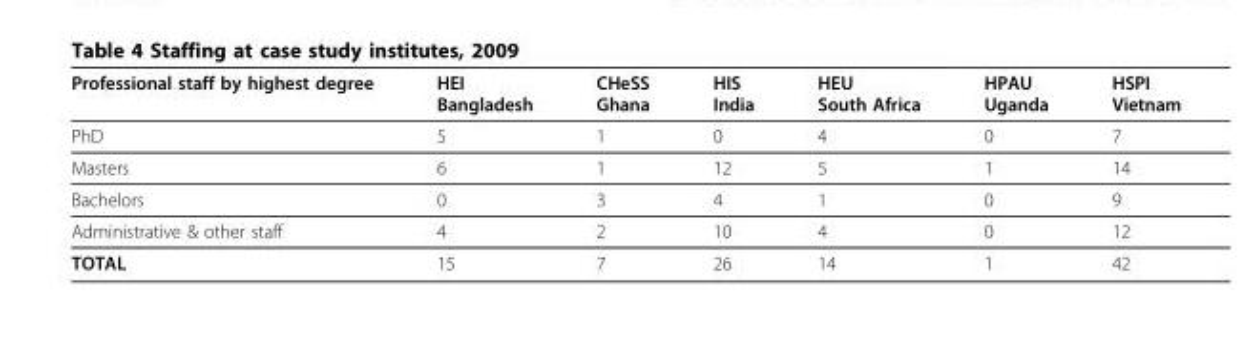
<table><thead><tr><td>Professional staff by highest degree</td><td>HEI Bangladesh</td><td>CHeSS Ghana</td><td>HIS India</td><td>HEU South Africa</td><td>HPAU Uganda</td><td>HSPI Vietnam</td></tr></thead><tbody><tr><td>PhD</td><td>5</td><td>1</td><td>0</td><td>4</td><td>0</td><td>7</td></tr><tr><td>Masters</td><td>6</td><td>1</td><td>12</td><td>5</td><td>1</td><td>14</td></tr><tr><td>Bachelors</td><td>0</td><td>3</td><td>4</td><td>1</td><td>0</td><td>9</td></tr><tr><td>Administrative &amp; other staff</td><td>4</td><td>2</td><td>10</td><td>4</td><td>0</td><td>12</td></tr><tr><td>TOTAL</td><td>15</td><td>7</td><td>26</td><td>14</td><td>1</td><td>42</td></tr></tbody></table>